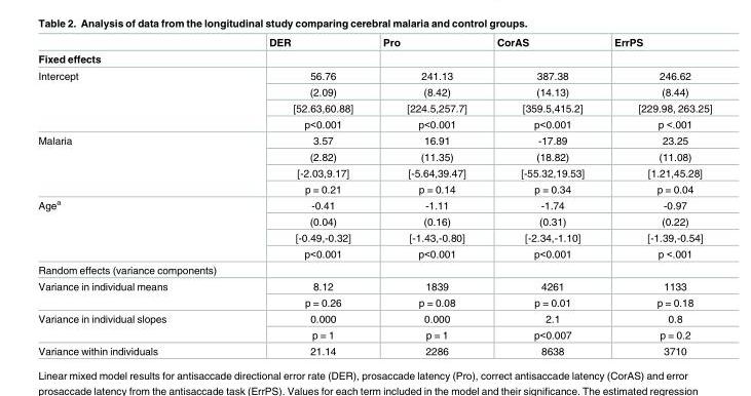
<table><thead><tr><td rowspan="2">Fixed effects</td><td rowspan="2">DER</td><td rowspan="2">Pro</td><td rowspan="2">CorAS</td><td rowspan="2">ErrPS</td></tr><tr></tr></thead><tbody><tr><td rowspan="4">Intercept</td><td>56.76</td><td>241.13</td><td>387.38</td><td>246.62</td></tr><tr><td>(2.09)</td><td>(8.42)</td><td>(14.13)</td><td>(8.44)</td></tr><tr><td>[52.63,60.88]</td><td>[224.5,257.7]</td><td>[359.5,415.2]</td><td>[229.98, 263.25]</td></tr><tr><td>p&lt;0.001</td><td>p&lt;0.001</td><td>p&lt;0.001</td><td>p &lt;.001</td></tr><tr><td rowspan="4">Malaria</td><td>3.57</td><td>16.91</td><td>-17.89</td><td>23.25</td></tr><tr><td>(2.82)</td><td>(11.35)</td><td>(18.82)</td><td>(11.08)</td></tr><tr><td>[-2.03,9.17]</td><td>[-5.64,39.47]</td><td>[-55.32,19.53]</td><td>[1.21,45.28]</td></tr><tr><td>p = 0.21</td><td>p = 0.14</td><td>p = 0.34</td><td>p = 0.04</td></tr><tr><td rowspan="4">Age<sup>a</sup></td><td>-0.41</td><td>-1.11</td><td>-1.74</td><td>-0.97</td></tr><tr><td>(0.04)</td><td>(0.16)</td><td>(0.31)</td><td>(0.22)</td></tr><tr><td>[-0.49,-0.32]</td><td>[-1.43,-0.80]</td><td>[-2.34,-1.10]</td><td>[-1.39,-0.54]</td></tr><tr><td>p&lt;0.001</td><td>p&lt;0.001</td><td>p&lt;0.001</td><td>p &lt;.001</td></tr><tr><td colspan="5">Random effects (variance components)</td></tr><tr><td rowspan="2">Variance in individual means</td><td>8.12</td><td>1839</td><td>4261</td><td>1133</td></tr><tr><td>p = 0.26</td><td>p = 0.08</td><td>p = 0.01</td><td>p = 0.18</td></tr><tr><td rowspan="2">Variance in individual slopes</td><td>0.000</td><td>0.000</td><td>2.1</td><td>0.8</td></tr><tr><td>p = 1</td><td>p = 1</td><td>p&lt;0.007</td><td>p = 0.2</td></tr><tr><td>Variance within individuals</td><td>21.14</td><td>2286</td><td>8638</td><td>3710</td></tr></tbody></table>